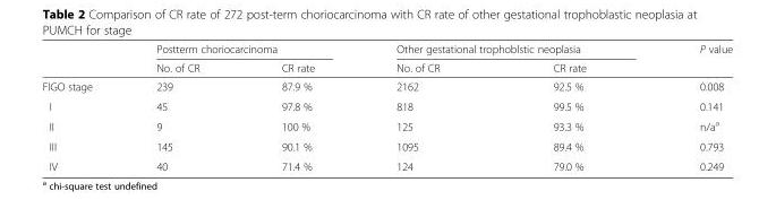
<table><thead><tr><td rowspan="2"></td><td colspan="2">Postterm choriocarcinoma</td><td colspan="2">Other gestational trophoblstic neoplasia</td><td rowspan="2">P value</td></tr><tr><td>No. of CR</td><td>CR rate</td><td>No. of CR</td><td>CR rate</td></tr></thead><tbody><tr><td>FIGO stage</td><td>239</td><td>87.9 %</td><td>2162</td><td>92.5 %</td><td>0.008</td></tr><tr><td>I</td><td>45</td><td>97.8 %</td><td>818</td><td>99.5 %</td><td>0.141</td></tr><tr><td>II</td><td>9</td><td>100 %</td><td>125</td><td>93.3 %</td><td>n/a<sup>a</sup></td></tr><tr><td>III</td><td>145</td><td>90.1 %</td><td>1095</td><td>89.4 %</td><td>0.793</td></tr><tr><td>IV</td><td>40</td><td>71.4 %</td><td>124</td><td>79.0 %</td><td>0.249</td></tr></tbody></table>